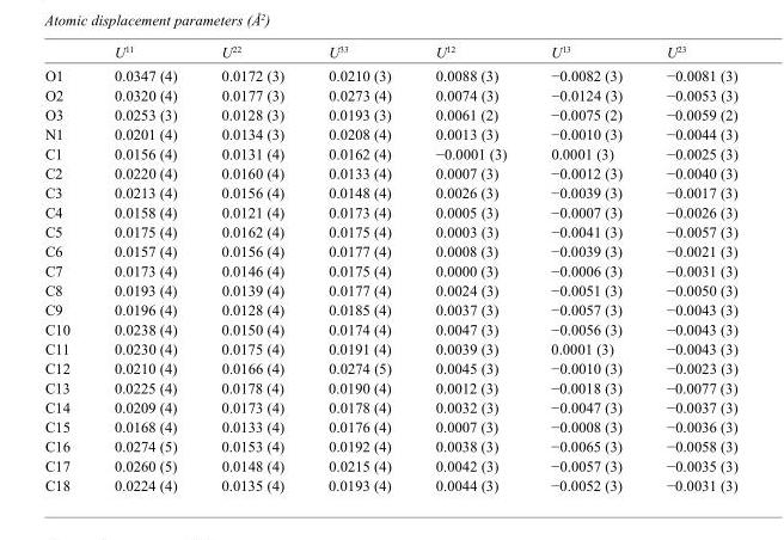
<table><thead><tr><td></td><td>U<sup>11</sup></td><td>U<sup>22</sup></td><td>U<sup>33</sup></td><td>U<sup>12</sup></td><td>U<sup>13</sup></td><td>U<sup>23</sup></td></tr></thead><tbody><tr><td>O1</td><td>0.0347 (4)</td><td>0.0172 (3)</td><td>0.0210 (3)</td><td>0.0088 (3)</td><td>−0.0082 (3)</td><td>−0.0081 (3)</td></tr><tr><td>O2</td><td>0.0320 (4)</td><td>0.0177 (3)</td><td>0.0273 (4)</td><td>0.0074 (3)</td><td>−0.0124 (3)</td><td>−0.0053 (3)</td></tr><tr><td>O3</td><td>0.0253 (3)</td><td>0.0128 (3)</td><td>0.0193 (3)</td><td>0.0061 (2)</td><td>−0.0075 (2)</td><td>−0.0059 (2)</td></tr><tr><td>N1</td><td>0.0201 (4)</td><td>0.0134 (3)</td><td>0.0208 (4)</td><td>0.0013 (3)</td><td>−0.0010 (3)</td><td>−0.0044 (3)</td></tr><tr><td>C1</td><td>0.0156 (4)</td><td>0.0131 (4)</td><td>0.0162 (4)</td><td>−0.0001 (3)</td><td>0.0001 (3)</td><td>−0.0025 (3)</td></tr><tr><td>C2</td><td>0.0220 (4)</td><td>0.0160 (4)</td><td>0.0133 (4)</td><td>0.0007 (3)</td><td>−0.0012 (3)</td><td>−0.0040 (3)</td></tr><tr><td>C3</td><td>0.0213 (4)</td><td>0.0156 (4)</td><td>0.0148 (4)</td><td>0.0026 (3)</td><td>−0.0039 (3)</td><td>−0.0017 (3)</td></tr><tr><td>C4</td><td>0.0158 (4)</td><td>0.0121 (4)</td><td>0.0173 (4)</td><td>0.0005 (3)</td><td>−0.0007 (3)</td><td>−0.0026 (3)</td></tr><tr><td>C5</td><td>0.0175 (4)</td><td>0.0162 (4)</td><td>0.0175 (4)</td><td>0.0003 (3)</td><td>−0.0041 (3)</td><td>−0.0057 (3)</td></tr><tr><td>C6</td><td>0.0157 (4)</td><td>0.0156 (4)</td><td>0.0177 (4)</td><td>0.0008 (3)</td><td>−0.0039 (3)</td><td>−0.0021 (3)</td></tr><tr><td>C7</td><td>0.0173 (4)</td><td>0.0146 (4)</td><td>0.0175 (4)</td><td>0.0000 (3)</td><td>−0.0006 (3)</td><td>−0.0031 (3)</td></tr><tr><td>C8</td><td>0.0193 (4)</td><td>0.0139 (4)</td><td>0.0177 (4)</td><td>0.0024 (3)</td><td>−0.0051 (3)</td><td>−0.0050 (3)</td></tr><tr><td>C9</td><td>0.0196 (4)</td><td>0.0128 (4)</td><td>0.0185 (4)</td><td>0.0037 (3)</td><td>−0.0057 (3)</td><td>−0.0043 (3)</td></tr><tr><td>C10</td><td>0.0238 (4)</td><td>0.0150 (4)</td><td>0.0174 (4)</td><td>0.0047 (3)</td><td>−0.0056 (3)</td><td>−0.0043 (3)</td></tr><tr><td>C11</td><td>0.0230 (4)</td><td>0.0175 (4)</td><td>0.0191 (4)</td><td>0.0039 (3)</td><td>0.0001 (3)</td><td>−0.0043 (3)</td></tr><tr><td>C12</td><td>0.0210 (4)</td><td>0.0166 (4)</td><td>0.0274 (5)</td><td>0.0045 (3)</td><td>−0.0010 (3)</td><td>−0.0023 (3)</td></tr><tr><td>C13</td><td>0.0225 (4)</td><td>0.0178 (4)</td><td>0.0190 (4)</td><td>0.0012 (3)</td><td>−0.0018 (3)</td><td>−0.0077 (3)</td></tr><tr><td>C14</td><td>0.0209 (4)</td><td>0.0173 (4)</td><td>0.0178 (4)</td><td>0.0032 (3)</td><td>−0.0047 (3)</td><td>−0.0037 (3)</td></tr><tr><td>C15</td><td>0.0168 (4)</td><td>0.0133 (4)</td><td>0.0176 (4)</td><td>0.0007 (3)</td><td>−0.0008 (3)</td><td>−0.0036 (3)</td></tr><tr><td>C16</td><td>0.0274 (5)</td><td>0.0153 (4)</td><td>0.0192 (4)</td><td>0.0038 (3)</td><td>−0.0065 (3)</td><td>−0.0058 (3)</td></tr><tr><td>C17</td><td>0.0260 (5)</td><td>0.0148 (4)</td><td>0.0215 (4)</td><td>0.0042 (3)</td><td>−0.0057 (3)</td><td>−0.0035 (3)</td></tr><tr><td>C18</td><td>0.0224 (4)</td><td>0.0135 (4)</td><td>0.0193 (4)</td><td>0.0044 (3)</td><td>−0.0052 (3)</td><td>−0.0031 (3)</td></tr></tbody></table>